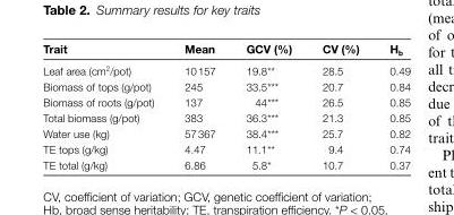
<table><thead><tr><td>Trait</td><td>Mean</td><td>GCV (%)</td><td>CV (%)</td><td>H<sub>b</sub></td></tr></thead><tbody><tr><td>Leaf area (cm<sup>2</sup>/pot)</td><td>10 157</td><td>19.8**</td><td>28.5</td><td>0.49</td></tr><tr><td>Biomass of tops (g/pot)</td><td>245</td><td>33.5***</td><td>20.7</td><td>0.84</td></tr><tr><td>Biomass of roots (g/pot)</td><td>137</td><td>44***</td><td>26.5</td><td>0.85</td></tr><tr><td>Total biomass (g/pot)</td><td>383</td><td>36.3***</td><td>21.3</td><td>0.85</td></tr><tr><td>Water use (kg)</td><td>57 367</td><td>38.4***</td><td>25.7</td><td>0.82</td></tr><tr><td>TE tops (g/kg)</td><td>4.47</td><td>11.1**</td><td>9.4</td><td>0.74</td></tr><tr><td>TE total (g/kg)</td><td>6.86</td><td>5.8*</td><td>10.7</td><td>0.37</td></tr></tbody></table>